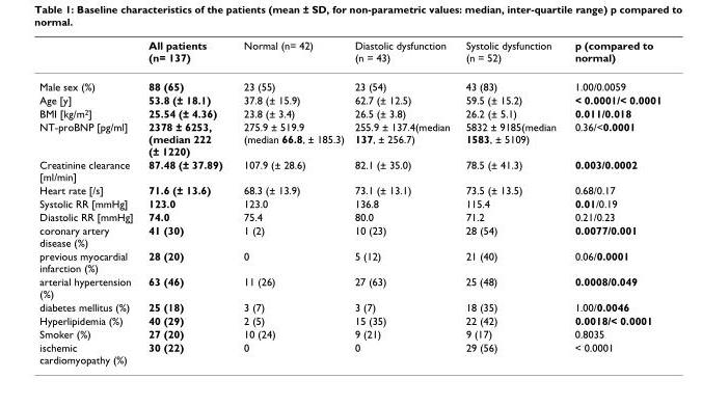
<table><thead><tr><td></td><td>All patients (n= 137)</td><td>Normal (n= 42)</td><td>Diastolic dysfunction (n = 43)</td><td>Systolic dysfunction (n = 52)</td><td>p (compared to normal)</td></tr></thead><tbody><tr><td>Male sex (%)</td><td>88 (65)</td><td>23 (55)</td><td>23 (54)</td><td>43 (83)</td><td>1.00/0.0059</td></tr><tr><td>Age [y]</td><td>53.8 (± 18.1)</td><td>37.8 (± 15.9)</td><td>62.7 (± 12.5)</td><td>59.5 (± 15.2)</td><td>&lt; 0.0001/&lt; 0.0001</td></tr><tr><td>BMI [kg/m<sup>2</sup>]</td><td>25.54 (± 4.36)</td><td>23.8 (± 3.4)</td><td>26.5 (± 3.8)</td><td>26.2 (± 5.1)</td><td>0.011/0.018</td></tr><tr><td>NT-proBNP [pg/ml]</td><td>2378 ± 6253, (median 222 (± 1220)</td><td>275.9 ± 519.9 (median 66.8, ± 185.3)</td><td>255.9 ± 137.4(median 137, ± 256.7)</td><td>5832 ± 9185(median 1583, ± 5109)</td><td>0.36/&lt;0.0001</td></tr><tr><td>Creatinine clearance [ml/min]</td><td>87.48 (± 37.89)</td><td>107.9 (± 28.6)</td><td>82.1 (± 35.0)</td><td>78.5 (± 41.3)</td><td>0.003/0.0002</td></tr><tr><td>Heart rate [/s]</td><td>71.6 (± 13.6)</td><td>68.3 (± 13.9)</td><td>73.1 (± 13.1)</td><td>73.5 (± 13.5)</td><td>0.68/0.17</td></tr><tr><td>Systolic RR [mmHg]</td><td>123.0</td><td>123.0</td><td>136.8</td><td>115.4</td><td>0.01/0.19</td></tr><tr><td>Diastolic RR [mmHg]</td><td>74.0</td><td>75.4</td><td>80.0</td><td>71.2</td><td>0.21/0.23</td></tr><tr><td>coronary artery disease (%)</td><td>41 (30)</td><td>1 (2)</td><td>10 (23)</td><td>28 (54)</td><td>0.0077/0.001</td></tr><tr><td>previous myocardial infarction (%)</td><td>28 (20)</td><td>0</td><td>5 (12)</td><td>21 (40)</td><td>0.06/0.0001</td></tr><tr><td>arterial hypertension (%)</td><td>63 (46)</td><td>11 (26)</td><td>27 (63)</td><td>25 (48)</td><td>0.0008/0.049</td></tr><tr><td>diabetes mellitus (%)</td><td>25 (18)</td><td>3 (7)</td><td>3 (7)</td><td>18 (35)</td><td>1.00/0.0046</td></tr><tr><td>Hyperlipidemia (%)</td><td>40 (29)</td><td>2 (5)</td><td>15 (35)</td><td>22 (42)</td><td>0.0018/&lt; 0.0001</td></tr><tr><td>Smoker (%)</td><td>27 (20)</td><td>10 (24)</td><td>9 (21)</td><td>9 (17)</td><td>0.8035</td></tr><tr><td>ischemic cardiomyopathy (%)</td><td>30 (22)</td><td>0</td><td>0</td><td>29 (56)</td><td>&lt; 0.0001</td></tr></tbody></table>